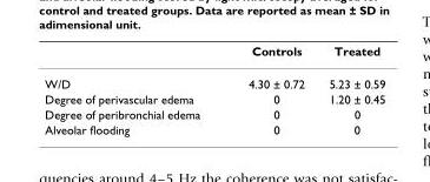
<table><thead><tr><td></td><td>Controls</td><td>Treated</td></tr></thead><tbody><tr><td>W/D</td><td>4.30 ± 0.72</td><td>5.23 ± 0.59</td></tr><tr><td>Degree of perivascular edema</td><td>0</td><td>1.20 ± 0.45</td></tr><tr><td>Degree of peribronchial edema</td><td>0</td><td>0</td></tr><tr><td>Alveolar flooding</td><td>0</td><td>0</td></tr></tbody></table>